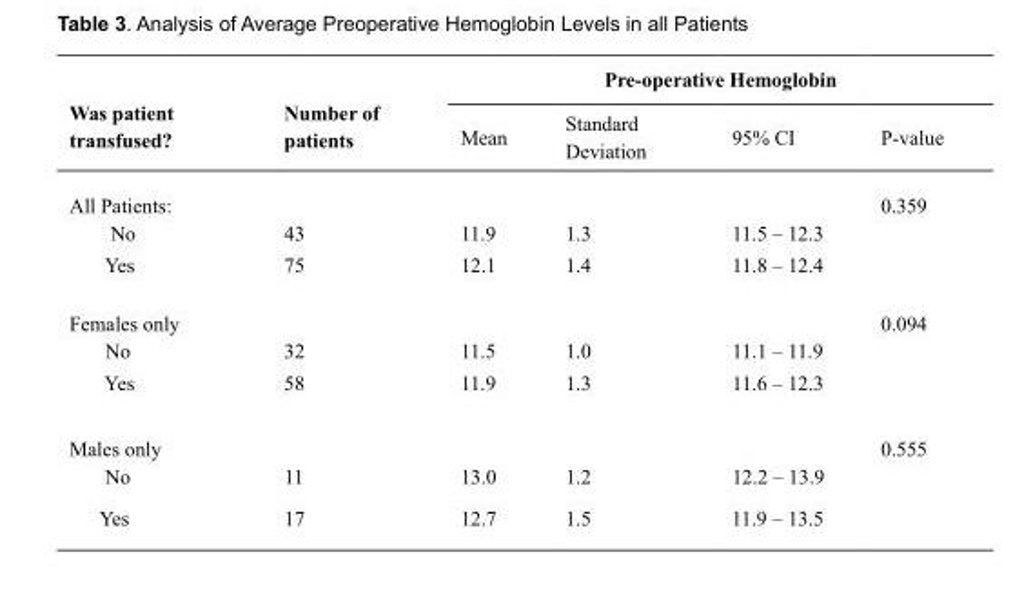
<table><thead><tr><td rowspan="2">Was patient transfused?</td><td rowspan="2">Number of patients</td><td colspan="4">Pre-operative Hemoglobin</td></tr><tr><td>Mean</td><td>Standard Deviation</td><td>95% CI</td><td>P-value</td></tr></thead><tbody><tr><td>All Patients:</td><td></td><td></td><td></td><td></td><td>0.359</td></tr><tr><td>No</td><td>43</td><td>11.9</td><td>1.3</td><td>11.5 – 12.3</td><td></td></tr><tr><td>Yes</td><td>75</td><td>12.1</td><td>1.4</td><td>11.8 – 12.4</td><td></td></tr><tr><td>Females only</td><td></td><td></td><td></td><td></td><td>0.094</td></tr><tr><td>No</td><td>32</td><td>11.5</td><td>1.0</td><td>11.1 – 11.9</td><td></td></tr><tr><td>Yes</td><td>58</td><td>11.9</td><td>1.3</td><td>11.6 – 12.3</td><td></td></tr><tr><td>Males only</td><td></td><td></td><td></td><td></td><td>0.555</td></tr><tr><td>No</td><td>11</td><td>13.0</td><td>1.2</td><td>12.2 – 13.9</td><td></td></tr><tr><td>Yes</td><td>17</td><td>12.7</td><td>1.5</td><td>11.9 – 13.5</td><td></td></tr></tbody></table>